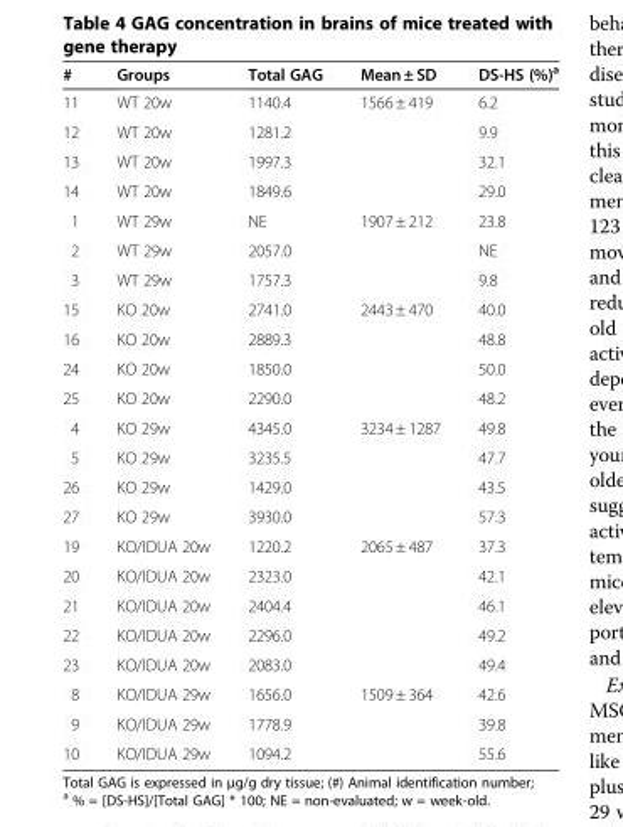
<table><thead><tr><td>#</td><td>Groups</td><td>Total GAG</td><td>Mean ± SD</td><td>DS-HS (%)<sup>a</sup></td></tr></thead><tbody><tr><td>11</td><td>WT 20w</td><td>1140.4</td><td>1566 ± 419</td><td>6.2</td></tr><tr><td>12</td><td>WT 20w</td><td>1281.2</td><td></td><td>9.9</td></tr><tr><td>13</td><td>WT 20w</td><td>1997.3</td><td></td><td>32.1</td></tr><tr><td>14</td><td>WT 20w</td><td>1849.6</td><td></td><td>29.0</td></tr><tr><td>1</td><td>WT 29w</td><td>NE</td><td>1907 ± 212</td><td>23.8</td></tr><tr><td>2</td><td>WT 29w</td><td>2057.0</td><td></td><td>NE</td></tr><tr><td>3</td><td>WT 29w</td><td>1757.3</td><td></td><td>9.8</td></tr><tr><td>15</td><td>KO 20w</td><td>2741.0</td><td>2443 ± 470</td><td>40.0</td></tr><tr><td>16</td><td>KO 20w</td><td>2889.3</td><td></td><td>48.8</td></tr><tr><td>24</td><td>KO 20w</td><td>1850.0</td><td></td><td>50.0</td></tr><tr><td>25</td><td>KO 20w</td><td>2290.0</td><td></td><td>48.2</td></tr><tr><td>4</td><td>KO 29w</td><td>4345.0</td><td>3234 ± 1287</td><td>49.8</td></tr><tr><td>5</td><td>KO 29w</td><td>3235.5</td><td></td><td>47.7</td></tr><tr><td>26</td><td>KO 29w</td><td>1429.0</td><td></td><td>43.5</td></tr><tr><td>27</td><td>KO 29w</td><td>3930.0</td><td></td><td>57.3</td></tr><tr><td>19</td><td>KO/IDUA 20w</td><td>1220.2</td><td>2065 ± 487</td><td>37.3</td></tr><tr><td>20</td><td>KO/IDUA 20w</td><td>2323.0</td><td></td><td>42.1</td></tr><tr><td>21</td><td>KO/IDUA 20w</td><td>2404.4</td><td></td><td>46.1</td></tr><tr><td>22</td><td>KO/IDUA 20w</td><td>2296.0</td><td></td><td>49.2</td></tr><tr><td>23</td><td>KO/IDUA 20w</td><td>2083.0</td><td></td><td>49.4</td></tr><tr><td>8</td><td>KO/IDUA 29w</td><td>1656.0</td><td>1509 ± 364</td><td>42.6</td></tr><tr><td>9</td><td>KO/IDUA 29w</td><td>1778.9</td><td></td><td>39.8</td></tr><tr><td>10</td><td>KO/IDUA 29w</td><td>1094.2</td><td></td><td>55.6</td></tr></tbody></table>